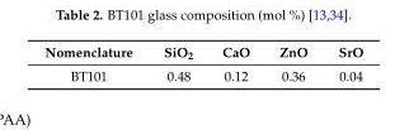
<table><thead><tr><td>Nomenclature</td><td>SiO<sub>2</sub></td><td>CaO</td><td>ZnO</td><td>SrO</td></tr></thead><tbody><tr><td>BT101</td><td>0.48</td><td>0.12</td><td>0.36</td><td>0.04</td></tr></tbody></table>